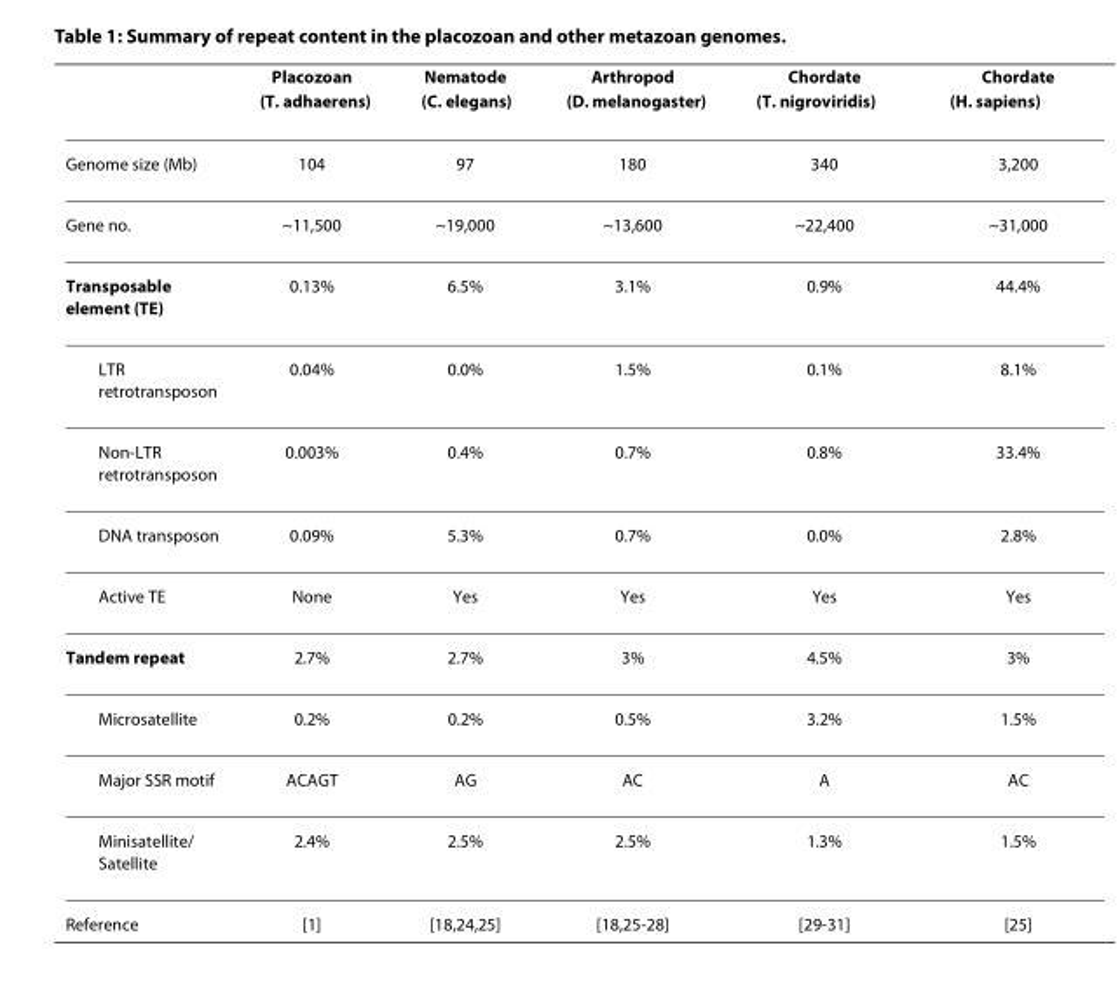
<table><thead><tr><td></td><td>Placozoan (T. adhaerens)</td><td>Nematode (C. elegans)</td><td>Arthropod (D. melanogaster)</td><td>Chordate (T. nigroviridis)</td><td>Chordate (H. sapiens)</td></tr></thead><tbody><tr><td>Genome size (Mb)</td><td>104</td><td>97</td><td>180</td><td>340</td><td>3,200</td></tr><tr><td>Gene no.</td><td>~11,500</td><td>~19,000</td><td>~13,600</td><td>~22,400</td><td>~31,000</td></tr><tr><td>Transposable element (TE)</td><td>0.13%</td><td>6.5%</td><td>3.1%</td><td>0.9%</td><td>44.4%</td></tr><tr><td>LTR retrotransposon</td><td>0.04%</td><td>0.0%</td><td>1.5%</td><td>0.1%</td><td>8.1%</td></tr><tr><td>Non-LTR retrotransposon</td><td>0.003%</td><td>0.4%</td><td>0.7%</td><td>0.8%</td><td>33.4%</td></tr><tr><td>DNA transposon</td><td>0.09%</td><td>5.3%</td><td>0.7%</td><td>0.0%</td><td>2.8%</td></tr><tr><td>Active TE</td><td>None</td><td>Yes</td><td>Yes</td><td>Yes</td><td>Yes</td></tr><tr><td>Tandem repeat</td><td>2.7%</td><td>2.7%</td><td>3%</td><td>4.5%</td><td>3%</td></tr><tr><td>Microsatellite</td><td>0.2%</td><td>0.2%</td><td>0.5%</td><td>3.2%</td><td>1.5%</td></tr><tr><td>Major SSR motif</td><td>ACAGT</td><td>AG</td><td>AC</td><td>A</td><td>AC</td></tr><tr><td>Minisatellite/ Satellite</td><td>2.4%</td><td>2.5%</td><td>2.5%</td><td>1.3%</td><td>1.5%</td></tr><tr><td>Reference</td><td>[1]</td><td>[18,24,25]</td><td>[18,25-28]</td><td>[29-31]</td><td>[25]</td></tr></tbody></table>